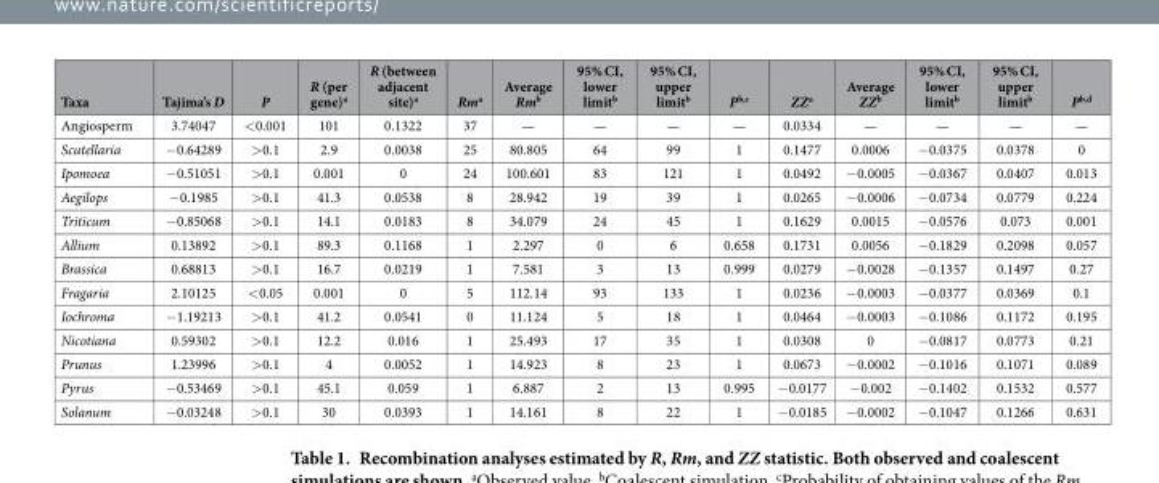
<table><thead><tr><td>Taxa</td><td>Tajima’s D</td><td>P</td><td>R (per gene)<sup>a</sup></td><td>R (between adjacent site)<sup>a</sup></td><td>Rm<sup>a</sup></td><td>Average Rm<sup>b</sup></td><td>95% CI, lower limit<sup>b</sup></td><td>95% CI, upper limit<sup>b</sup></td><td>P<sup>b</sup>,<sup>c</sup></td><td>ZZ<sup>a</sup></td><td>Average ZZ<sup>b</sup></td><td>95% CI, lower limit<sup>b</sup></td><td>95% CI, upper limit<sup>b</sup></td><td>P<sup>b</sup>,<sup>d</sup></td></tr></thead><tbody><tr><td>Angiosperm</td><td>3.74047</td><td>&lt; 0.001</td><td>101</td><td>0.1322</td><td>37</td><td>—</td><td>—</td><td>—</td><td>—</td><td>0.0334</td><td>—</td><td>—</td><td>—</td><td>—</td></tr><tr><td>Scutellaria</td><td>− 0.64289</td><td>&gt; 0.1</td><td>2.9</td><td>0.0038</td><td>25</td><td>80.805</td><td>64</td><td>99</td><td>1</td><td>0.1477</td><td>0.0006</td><td>− 0.0375</td><td>0.0378</td><td>0</td></tr><tr><td>Ipomoea</td><td>− 0.51051</td><td>&gt; 0.1</td><td>0.001</td><td>0</td><td>24</td><td>100.601</td><td>83</td><td>121</td><td>1</td><td>0.0492</td><td>− 0.0005</td><td>− 0.0367</td><td>0.0407</td><td>0.013</td></tr><tr><td>Aegilops</td><td>− 0.1985</td><td>&gt; 0.1</td><td>41.3</td><td>0.0538</td><td>8</td><td>28.942</td><td>19</td><td>39</td><td>1</td><td>0.0265</td><td>− 0.0006</td><td>− 0.0734</td><td>0.0779</td><td>0.224</td></tr><tr><td>Triticum</td><td>− 0.85068</td><td>&gt; 0.1</td><td>14.1</td><td>0.0183</td><td>8</td><td>34.079</td><td>24</td><td>45</td><td>1</td><td>0.1629</td><td>0.0015</td><td>− 0.0576</td><td>0.073</td><td>0.001</td></tr><tr><td>Allium</td><td>0.13892</td><td>&gt; 0.1</td><td>89.3</td><td>0.1168</td><td>1</td><td>2.297</td><td>0</td><td>6</td><td>0.658</td><td>0.1731</td><td>0.0056</td><td>− 0.1829</td><td>0.2098</td><td>0.057</td></tr><tr><td>Brassica</td><td>0.68813</td><td>&gt; 0.1</td><td>16.7</td><td>0.0219</td><td>1</td><td>7.581</td><td>3</td><td>13</td><td>0.999</td><td>0.0279</td><td>− 0.0028</td><td>− 0.1357</td><td>0.1497</td><td>0.27</td></tr><tr><td>Fragaria</td><td>2.10125</td><td>&lt; 0.05</td><td>0.001</td><td>0</td><td>5</td><td>112.14</td><td>93</td><td>133</td><td>1</td><td>0.0236</td><td>− 0.0003</td><td>− 0.0377</td><td>0.0369</td><td>0.1</td></tr><tr><td>Iochroma</td><td>− 1.19213</td><td>&gt; 0.1</td><td>41.2</td><td>0.0541</td><td>0</td><td>11.124</td><td>5</td><td>18</td><td>1</td><td>0.0464</td><td>− 0.0003</td><td>− 0.1086</td><td>0.1172</td><td>0.195</td></tr><tr><td>Nicotiana</td><td>0.59302</td><td>&gt; 0.1</td><td>12.2</td><td>0.016</td><td>1</td><td>25.493</td><td>17</td><td>35</td><td>1</td><td>0.0308</td><td>0</td><td>− 0.0817</td><td>0.0773</td><td>0.21</td></tr><tr><td>Prunus</td><td>1.23996</td><td>&gt; 0.1</td><td>4</td><td>0.0052</td><td>1</td><td>14.923</td><td>8</td><td>23</td><td>1</td><td>0.0673</td><td>− 0.0002</td><td>− 0.1016</td><td>0.1071</td><td>0.089</td></tr><tr><td>Pyrus</td><td>− 0.53469</td><td>&gt; 0.1</td><td>45.1</td><td>0.059</td><td>1</td><td>6.887</td><td>2</td><td>13</td><td>0.995</td><td>− 0.0177</td><td>− 0.002</td><td>− 0.1402</td><td>0.1532</td><td>0.577</td></tr><tr><td>Solanum</td><td>− 0.03248</td><td>&gt; 0.1</td><td>30</td><td>0.0393</td><td>1</td><td>14.161</td><td>8</td><td>22</td><td>1</td><td>− 0.0185</td><td>− 0.0002</td><td>− 0.1047</td><td>0.1266</td><td>0.631</td></tr></tbody></table>